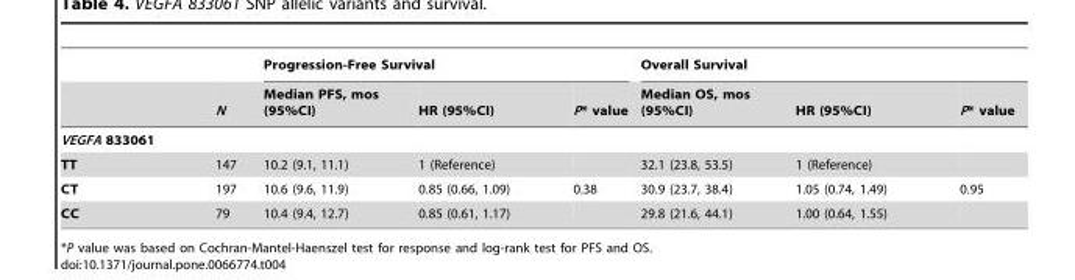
<table><thead><tr><td rowspan="2"></td><td rowspan="2">N</td><td colspan="3">Progression-Free Survival</td><td colspan="3">Overall Survival</td></tr><tr><td>Median PFS, mos (95%CI)</td><td>HR (95%CI)</td><td>P* value</td><td>Median OS, mos (95%CI)</td><td>HR (95%CI)</td><td>P* value</td></tr></thead><tbody><tr><td colspan="8">VEGFA 833061</td></tr><tr><td>TT</td><td>147</td><td>10.2 (9.1, 11.1)</td><td>1 (Reference)</td><td></td><td>32.1 (23.8, 53.5)</td><td>1 (Reference)</td><td></td></tr><tr><td>CT</td><td>197</td><td>10.6 (9.6, 11.9)</td><td>0.85 (0.66, 1.09)</td><td>0.38</td><td>30.9 (23.7, 38.4)</td><td>1.05 (0.74, 1.49)</td><td>0.95</td></tr><tr><td>CC</td><td>79</td><td>10.4 (9.4, 12.7)</td><td>0.85 (0.61, 1.17)</td><td></td><td>29.8 (21.6, 44.1)</td><td>1.00 (0.64, 1.55)</td><td></td></tr></tbody></table>